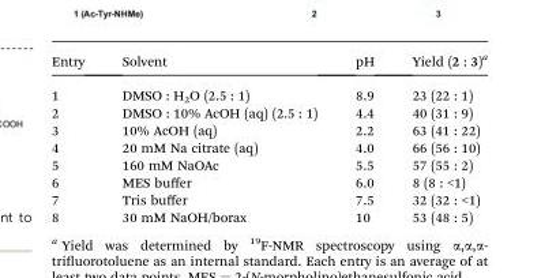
<table><thead><tr><td>Entry</td><td>Solvent</td><td>pH</td><td>Yield (2 : 3)<sup>a</sup></td></tr></thead><tbody><tr><td>1</td><td>DMSO : H<sub>2</sub>O (2.5 : 1)</td><td>8.9</td><td>23 (22 : 1)</td></tr><tr><td>2</td><td>DMSO : 10% AcOH (aq) (2.5 : 1)</td><td>4.4</td><td>40 (31 : 9)</td></tr><tr><td>3</td><td>10% AcOH (aq)</td><td>2.2</td><td>63 (41 : 22)</td></tr><tr><td>4</td><td>20 mM Na citrate (aq)</td><td>4.0</td><td>66 (56 : 10)</td></tr><tr><td>5</td><td>160 mM NaOAc</td><td>5.5</td><td>57 (55 : 2)</td></tr><tr><td>6</td><td>MES buffer</td><td>6.0</td><td>8 (8 : &lt;1)</td></tr><tr><td>7</td><td>Tris buffer</td><td>7.5</td><td>32 (32 : &lt;1)</td></tr><tr><td>8</td><td>30 mM NaOH/borax</td><td>10</td><td>53 (48 : 5)</td></tr></tbody></table>